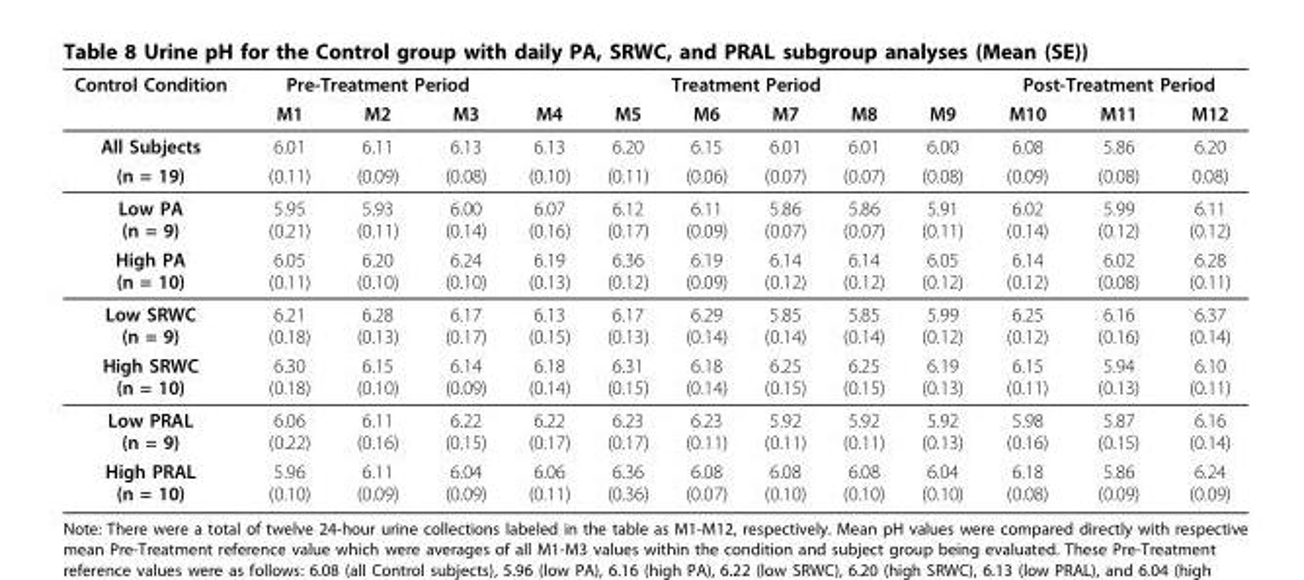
<table><thead><tr><td rowspan="2">Control Condition</td><td colspan="3">Pre-Treatment Period</td><td colspan="6">Treatment Period</td><td colspan="3">Post-Treatment Period</td></tr><tr><td>M1</td><td>M2</td><td>M3</td><td>M4</td><td>M5</td><td>M6</td><td>M7</td><td>M8</td><td>M9</td><td>M10</td><td>M11</td><td>M12</td></tr></thead><tbody><tr><td>All Subjects</td><td>6.01</td><td>6.11</td><td>6.13</td><td>6.13</td><td>6.20</td><td>6.15</td><td>6.01</td><td>6.01</td><td>6.00</td><td>6.08</td><td>5.86</td><td>6.20</td></tr><tr><td>(n = 19)</td><td>(0.11)</td><td>(0.09)</td><td>(0.08)</td><td>(0.10)</td><td>(0.11)</td><td>(0.06)</td><td>(0.07)</td><td>(0.07)</td><td>(0.08)</td><td>(0.09)</td><td>(0.08)</td><td>0.08)</td></tr><tr><td>Low PA (n = 9)</td><td>5.95 (0.21)</td><td>5.93 (0.11)</td><td>6.00 (0.14)</td><td>6.07 (0.16)</td><td>6.12 (0.17)</td><td>6.11 (0.09)</td><td>5.86 (0.07)</td><td>5.86 (0.07)</td><td>5.91 (0.11)</td><td>6.02 (0.14)</td><td>5.99 (0.12)</td><td>6.11 (0.12)</td></tr><tr><td>High PA (n = 10)</td><td>6.05 (0.11)</td><td>6.20 (0.10)</td><td>6.24 (0.10)</td><td>6.19 (0.13)</td><td>6.36 (0.12)</td><td>6.19 (0.09)</td><td>6.14 (0.12)</td><td>6.14 (0.12)</td><td>6.05 (0.12)</td><td>6.14 (0.12)</td><td>6.02 (0.08)</td><td>6.28 (0.11)</td></tr><tr><td>Low SRWC (n = 9)</td><td>6.21 (0.18)</td><td>6.28 (0.13)</td><td>6.17 (0.17)</td><td>6.13 (0.15)</td><td>6.17 (0.13)</td><td>6.29 (0.14)</td><td>5.85 (0.14)</td><td>5.85 (0.14)</td><td>5.99 (0.12)</td><td>6.25 (0.12)</td><td>6.16 (0.16)</td><td>6.37 (0.14)</td></tr><tr><td>High SRWC (n = 10)</td><td>6.30 (0.18)</td><td>6.15 (0.10)</td><td>6.14 (0.09)</td><td>6.18 (0.14)</td><td>6.31 (0.15)</td><td>6.18 (0.14)</td><td>6.25 (0.15)</td><td>6.25 (0.15)</td><td>6.19 (0.13)</td><td>6.15 (0.11)</td><td>5.94 (0.13)</td><td>6.10 (0.11)</td></tr><tr><td>Low PRAL (n = 9)</td><td>6.06 (0.22)</td><td>6.11 (0.16)</td><td>6.22 (0.15)</td><td>6.22 (0.17)</td><td>6.23 (0.17)</td><td>6.23 (0.11)</td><td>5.92 (0.11)</td><td>5.92 (0.11)</td><td>5.92 (0.13)</td><td>5.98 (0.16)</td><td>5.87 (0.15)</td><td>6.16 (0.14)</td></tr><tr><td>High PRAL (n = 10)</td><td>5.96 (0.10)</td><td>6.11 (0.09)</td><td>6.04 (0.09)</td><td>6.06 (0.11)</td><td>6.36 (0.36)</td><td>6.08 (0.07)</td><td>6.08 (0.10)</td><td>6.08 (0.10)</td><td>6.04 (0.10)</td><td>6.18 (0.08)</td><td>5.86 (0.09)</td><td>6.24 (0.09)</td></tr></tbody></table>